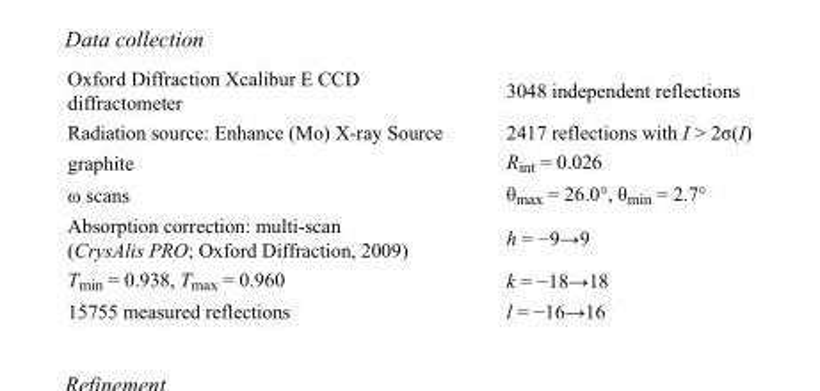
<table><tbody><tr><td>Oxford Diffraction Xcalibur E CCD diffractometer</td><td>3048 independent reflections</td></tr><tr><td>Radiation source: Enhance (Mo) X-ray Source</td><td>2417 reflections with I &gt; 2σ(I)</td></tr><tr><td>graphite</td><td>R<sub>int</sub> = 0.026</td></tr><tr><td>ω scans</td><td>θ<sub>max</sub> = 26.0°, θ<sub>min</sub> = 2.7°</td></tr><tr><td>Absorption correction: multi-scan (CrysAlis PRO; Oxford Diffraction, 2009)</td><td>h = −9→9</td></tr><tr><td>T<sub>min</sub> = 0.938, T<sub>max</sub> = 0.960</td><td>k = −18→18</td></tr><tr><td>15755 measured reflections</td><td>l = −16→16</td></tr></tbody></table>